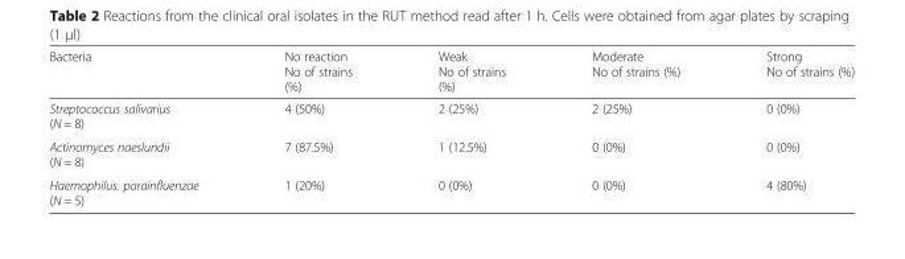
<table><thead><tr><td>Bacteria</td><td>No reaction No of strains (%)</td><td>Weak No of strains (%)</td><td>Moderate No of strains (%)</td><td>Strong No of strains (%)</td></tr></thead><tbody><tr><td>Streptococcus salivarius (N = 8)</td><td>4 (50%)</td><td>2 (25%)</td><td>2 (25%)</td><td>0 (0%)</td></tr><tr><td>Actinomyces naeslundii (N = 8)</td><td>7 (87.5%)</td><td>1 (12.5%)</td><td>0 (0%)</td><td>0 (0%)</td></tr><tr><td>Haemophilus. parainfluenzae (N = 5)</td><td>1 (20%)</td><td>0 (0%)</td><td>0 (0%)</td><td>4 (80%)</td></tr></tbody></table>